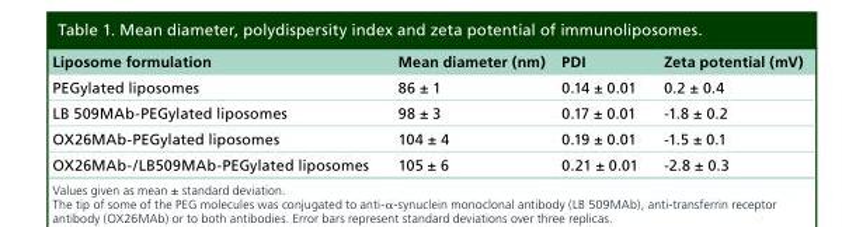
<table><thead><tr><td>Liposome formulation</td><td>Mean diameter (nm)</td><td>PDI</td><td>Zeta potential (mV)</td></tr></thead><tbody><tr><td>PEGylated liposomes</td><td>86 ± 1</td><td>0.14 ± 0.01</td><td>0.2 ± 0.4</td></tr><tr><td>LB 509MAb-PEGylated liposomes</td><td>98 ± 3</td><td>0.17 ± 0.01</td><td>-1.8 ± 0.2</td></tr><tr><td>OX26MAb-PEGylated liposomes</td><td>104 ± 4</td><td>0.19 ± 0.01</td><td>-1.5 ± 0.1</td></tr><tr><td>OX26MAb-/LB509MAb-PEGylated liposomes</td><td>105 ± 6</td><td>0.21 ± 0.01</td><td>-2.8 ± 0.3</td></tr></tbody></table>